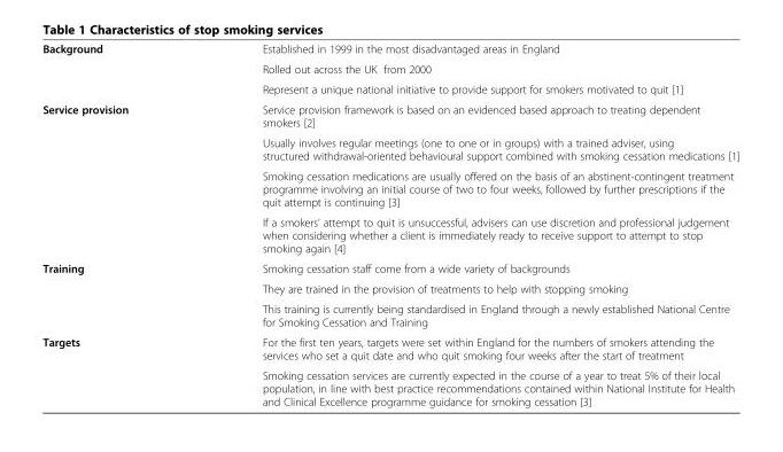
<table><tbody><tr><td rowspan="3">Background</td><td>Established in 1999 in the most disadvantaged areas in England</td></tr><tr><td>Rolled out across the UK from 2000</td></tr><tr><td>Represent a unique national initiative to provide support for smokers motivated to quit [1]</td></tr><tr><td rowspan="4">Service provision</td><td>Service provision framework is based on an evidenced based approach to treating dependent smokers [2]</td></tr><tr><td>Usually involves regular meetings (one to one or in groups) with a trained adviser, using structured withdrawal-oriented behavioural support combined with smoking cessation medications [1]</td></tr><tr><td>Smoking cessation medications are usually offered on the basis of an abstinent-contingent treatment programme involving an initial course of two to four weeks, followed by further prescriptions if the quit attempt is continuing [3]</td></tr><tr><td>If a smokers’ attempt to quit is unsuccessful, advisers can use discretion and professional judgement when considering whether a client is immediately ready to receive support to attempt to stop smoking again [4]</td></tr><tr><td rowspan="3">Training</td><td>Smoking cessation staff come from a wide variety of backgrounds</td></tr><tr><td>They are trained in the provision of treatments to help with stopping smoking</td></tr><tr><td>This training is currently being standardised in England through a newly established National Centre for Smoking Cessation and Training</td></tr><tr><td rowspan="2">Targets</td><td>For the first ten years, targets were set within England for the numbers of smokers attending the services who set a quit date and who quit smoking four weeks after the start of treatment</td></tr><tr><td>Smoking cessation services are currently expected in the course of a year to treat 5% of their local population, in line with best practice recommendations contained within National Institute for Health and Clinical Excellence programme guidance for smoking cessation [3]</td></tr></tbody></table>